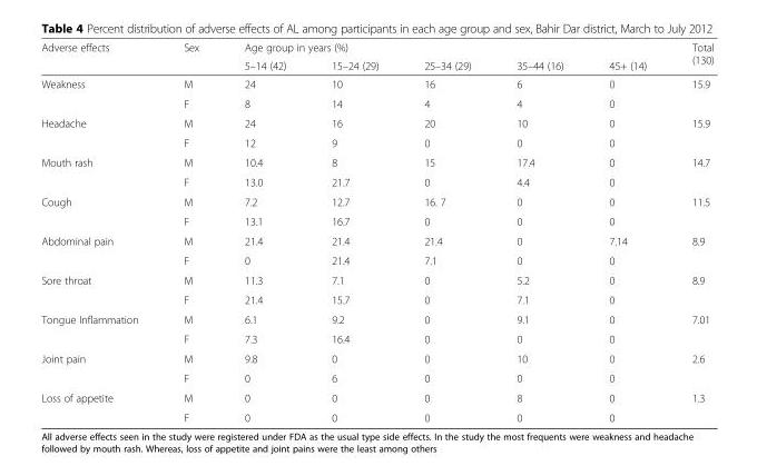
<table><thead><tr><td rowspan="2">Adverse effects</td><td rowspan="2">Sex</td><td colspan="5">Age group in years (%)</td><td rowspan="2">Total (130)</td></tr><tr><td>5–14 (42)</td><td>15–24 (29)</td><td>25–34 (29)</td><td>35–44 (16)</td><td>45+ (14)</td></tr></thead><tbody><tr><td rowspan="2">Weakness</td><td>M</td><td>24</td><td>10</td><td>16</td><td>6</td><td>0</td><td rowspan="2">15.9</td></tr><tr><td>F</td><td>8</td><td>14</td><td>4</td><td>4</td><td>0</td></tr><tr><td rowspan="2">Headache</td><td>M</td><td>24</td><td>16</td><td>20</td><td>10</td><td>0</td><td rowspan="2">15.9</td></tr><tr><td>F</td><td>12</td><td>9</td><td>0</td><td>0</td><td>0</td></tr><tr><td rowspan="2">Mouth rash</td><td>M</td><td>10.4</td><td>8</td><td>15</td><td>17.4</td><td>0</td><td rowspan="2">14.7</td></tr><tr><td>F</td><td>13.0</td><td>21.7</td><td>0</td><td>4.4</td><td>0</td></tr><tr><td rowspan="2">Cough</td><td>M</td><td>7.2</td><td>12.7</td><td>16. 7</td><td>0</td><td>0</td><td rowspan="2">11.5</td></tr><tr><td>F</td><td>13.1</td><td>16.7</td><td>0</td><td>0</td><td>0</td></tr><tr><td rowspan="2">Abdominal pain</td><td>M</td><td>21.4</td><td>21.4</td><td>21.4</td><td>0</td><td>7.14</td><td rowspan="2">8.9</td></tr><tr><td>F</td><td>0</td><td>21.4</td><td>7.1</td><td>0</td><td>0</td></tr><tr><td rowspan="2">Sore throat</td><td>M</td><td>11.3</td><td>7.1</td><td>0</td><td>5.2</td><td>0</td><td rowspan="2">8.9</td></tr><tr><td>F</td><td>21.4</td><td>15.7</td><td>0</td><td>7.1</td><td>0</td></tr><tr><td rowspan="2">Tongue Inflammation</td><td>M</td><td>6.1</td><td>9.2</td><td>0</td><td>9.1</td><td>0</td><td rowspan="2">7.01</td></tr><tr><td>F</td><td>7.3</td><td>16.4</td><td>0</td><td>0</td><td>0</td></tr><tr><td rowspan="2">Joint pain</td><td>M</td><td>9.8</td><td>0</td><td>0</td><td>10</td><td>0</td><td rowspan="2">2.6</td></tr><tr><td>F</td><td>0</td><td>6</td><td>0</td><td>0</td><td>0</td></tr><tr><td rowspan="2">Loss of appetite</td><td>M</td><td>0</td><td>0</td><td>0</td><td>8</td><td>0</td><td rowspan="2">1.3</td></tr><tr><td>F</td><td>0</td><td>0</td><td>0</td><td>0</td><td>0</td></tr></tbody></table>